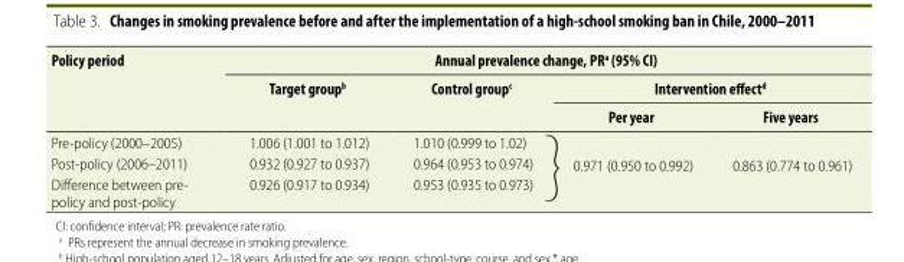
<table><thead><tr><td rowspan="3">Policy period</td><td colspan="4">Annual prevalence change, PR<sup>a</sup> (95% CI)</td></tr><tr><td rowspan="2">Target group<sup>b</sup></td><td rowspan="2">Control group<sup>c</sup></td><td colspan="2">Intervention effect<sup>d</sup></td></tr><tr><td>Per year</td><td>Five years</td></tr></thead><tbody><tr><td>Pre-policy (2000–2005)</td><td>1.006 (1.001 to 1.012)</td><td>1.010 (0.999 to 1.02)</td><td rowspan="3">0.971 (0.950 to 0.992)</td><td rowspan="3">0.863 (0.774 to 0.961)</td></tr><tr><td>Post-policy (2006–2011)</td><td>0.932 (0.927 to 0.937)</td><td>0.964 (0.953 to 0.974)</td></tr><tr><td>Difference between pre- policy and post-policy</td><td>0.926 (0.917 to 0.934)</td><td>0.953 (0.935 to 0.973)</td></tr></tbody></table>